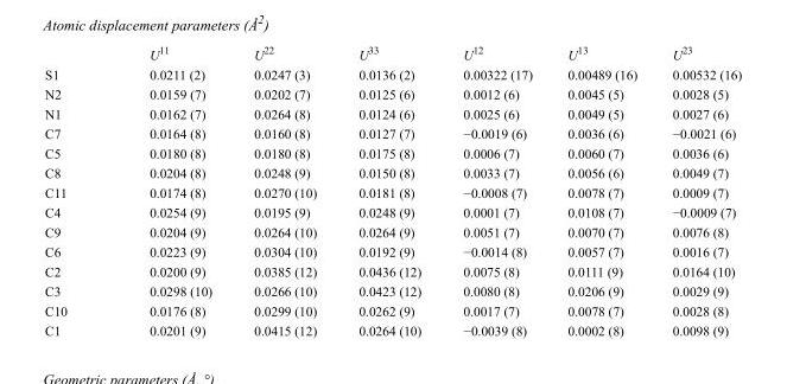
<table><thead><tr><td></td><td>U<sup>11</sup></td><td>U<sup>22</sup></td><td>U<sup>33</sup></td><td>U<sup>12</sup></td><td>U<sup>13</sup></td><td>U<sup>23</sup></td></tr></thead><tbody><tr><td>S1</td><td>0.0211 (2)</td><td>0.0247 (3)</td><td>0.0136 (2)</td><td>0.00322 (17)</td><td>0.00489 (16)</td><td>0.00532 (16)</td></tr><tr><td>N2</td><td>0.0159 (7)</td><td>0.0202 (7)</td><td>0.0125 (6)</td><td>0.0012 (6)</td><td>0.0045 (5)</td><td>0.0028 (5)</td></tr><tr><td>N1</td><td>0.0162 (7)</td><td>0.0264 (8)</td><td>0.0124 (6)</td><td>0.0025 (6)</td><td>0.0049 (5)</td><td>0.0027 (6)</td></tr><tr><td>C7</td><td>0.0164 (8)</td><td>0.0160 (8)</td><td>0.0127 (7)</td><td>−0.0019 (6)</td><td>0.0036 (6)</td><td>−0.0021 (6)</td></tr><tr><td>C5</td><td>0.0180 (8)</td><td>0.0180 (8)</td><td>0.0175 (8)</td><td>0.0006 (7)</td><td>0.0060 (7)</td><td>0.0036 (6)</td></tr><tr><td>C8</td><td>0.0204 (8)</td><td>0.0248 (9)</td><td>0.0150 (8)</td><td>0.0033 (7)</td><td>0.0056 (6)</td><td>0.0049 (7)</td></tr><tr><td>C11</td><td>0.0174 (8)</td><td>0.0270 (10)</td><td>0.0181 (8)</td><td>−0.0008 (7)</td><td>0.0078 (7)</td><td>0.0009 (7)</td></tr><tr><td>C4</td><td>0.0254 (9)</td><td>0.0195 (9)</td><td>0.0248 (9)</td><td>0.0001 (7)</td><td>0.0108 (7)</td><td>−0.0009 (7)</td></tr><tr><td>C9</td><td>0.0204 (9)</td><td>0.0264 (10)</td><td>0.0264 (9)</td><td>0.0051 (7)</td><td>0.0070 (7)</td><td>0.0076 (8)</td></tr><tr><td>C6</td><td>0.0223 (9)</td><td>0.0304 (10)</td><td>0.0192 (9)</td><td>−0.0014 (8)</td><td>0.0057 (7)</td><td>0.0016 (7)</td></tr><tr><td>C2</td><td>0.0200 (9)</td><td>0.0385 (12)</td><td>0.0436 (12)</td><td>0.0075 (8)</td><td>0.0111 (9)</td><td>0.0164 (10)</td></tr><tr><td>C3</td><td>0.0298 (10)</td><td>0.0266 (10)</td><td>0.0423 (12)</td><td>0.0080 (8)</td><td>0.0206 (9)</td><td>0.0029 (9)</td></tr><tr><td>C10</td><td>0.0176 (8)</td><td>0.0299 (10)</td><td>0.0262 (9)</td><td>0.0017 (7)</td><td>0.0078 (7)</td><td>0.0028 (8)</td></tr><tr><td>C1</td><td>0.0201 (9)</td><td>0.0415 (12)</td><td>0.0264 (10)</td><td>−0.0039 (8)</td><td>0.0002 (8)</td><td>0.0098 (9)</td></tr></tbody></table>